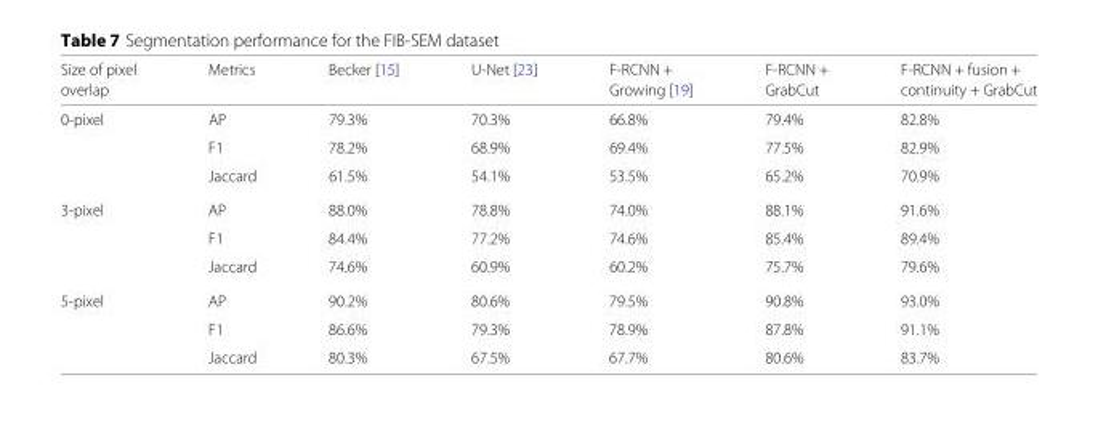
<table><thead><tr><td rowspan="2">Size of pixel overlap</td><td rowspan="2">Metrics</td><td rowspan="2">Becker [15]</td><td rowspan="2">U-Net [23]</td><td rowspan="2">F-RCNN + Growing [19]</td><td rowspan="2">F-RCNN + GrabCut</td><td rowspan="2">F-RCNN + fusion + continuity + GrabCut</td></tr><tr></tr></thead><tbody><tr><td rowspan="3">0-pixel</td><td>AP</td><td>79.3%</td><td>70.3%</td><td>66.8%</td><td>79.4%</td><td>82.8%</td></tr><tr><td>F1</td><td>78.2%</td><td>68.9%</td><td>69.4%</td><td>77.5%</td><td>82.9%</td></tr><tr><td>Jaccard</td><td>61.5%</td><td>54.1%</td><td>53.5%</td><td>65.2%</td><td>70.9%</td></tr><tr><td rowspan="3">3-pixel</td><td>AP</td><td>88.0%</td><td>78.8%</td><td>74.0%</td><td>88.1%</td><td>91.6%</td></tr><tr><td>F1</td><td>84.4%</td><td>77.2%</td><td>74.6%</td><td>85.4%</td><td>89.4%</td></tr><tr><td>Jaccard</td><td>74.6%</td><td>60.9%</td><td>60.2%</td><td>75.7%</td><td>79.6%</td></tr><tr><td rowspan="3">5-pixel</td><td>AP</td><td>90.2%</td><td>80.6%</td><td>79.5%</td><td>90.8%</td><td>93.0%</td></tr><tr><td>F1</td><td>86.6%</td><td>79.3%</td><td>78.9%</td><td>87.8%</td><td>91.1%</td></tr><tr><td>Jaccard</td><td>80.3%</td><td>67.5%</td><td>67.7%</td><td>80.6%</td><td>83.7%</td></tr></tbody></table>